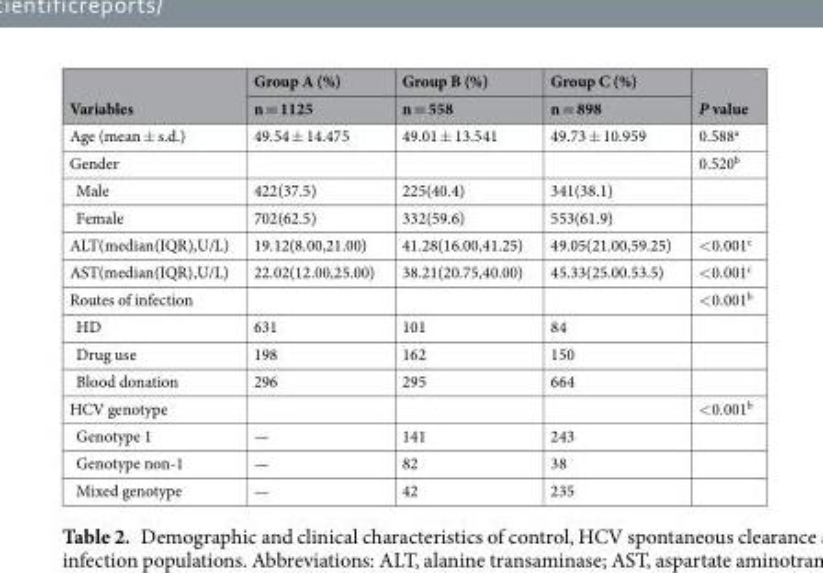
<table><thead><tr><td rowspan="2">Variables</td><td rowspan="2">Group A (%) n = 1125</td><td rowspan="2">Group B (%) n = 558</td><td rowspan="2">Group C (%) n = 898</td><td rowspan="2">P value</td></tr><tr></tr></thead><tbody><tr><td>Age (mean ± s.d.)</td><td>49.54 ± 14.475</td><td>49.01 ± 13.541</td><td>49.73 ± 10.959</td><td>0.588<sup>a</sup></td></tr><tr><td>Gender</td><td></td><td></td><td></td><td>0.520<sup>b</sup></td></tr><tr><td>Male</td><td>422(37.5)</td><td>225(40.4)</td><td>341(38.1)</td><td></td></tr><tr><td>Female</td><td>702(62.5)</td><td>332(59.6)</td><td>553(61.9)</td><td></td></tr><tr><td>ALT(median(IQR),U/L)</td><td>19.12(8.00,21.00)</td><td>41.28(16.00,41.25)</td><td>49.05(21.00,59.25)</td><td>&lt;0.001<sup>c</sup></td></tr><tr><td>AST(median(IQR),U/L)</td><td>22.02(12.00,25.00)</td><td>38.21(20.75,40.00)</td><td>45.33(25.00.53.5)</td><td>&lt;0.001<sup>c</sup></td></tr><tr><td>Routes of infection</td><td></td><td></td><td></td><td>&lt;0.001<sup>b</sup></td></tr><tr><td>HD</td><td>631</td><td>101</td><td>84</td><td></td></tr><tr><td>Drug use</td><td>198</td><td>162</td><td>150</td><td></td></tr><tr><td>Blood donation</td><td>296</td><td>295</td><td>664</td><td></td></tr><tr><td>HCV genotype</td><td></td><td></td><td></td><td>&lt;0.001<sup>b</sup></td></tr><tr><td>Genotype 1</td><td>—</td><td>141</td><td>243</td><td></td></tr><tr><td>Genotype non-1</td><td>—</td><td>82</td><td>38</td><td></td></tr><tr><td>Mixed genotype</td><td>—</td><td>42</td><td>235</td><td></td></tr></tbody></table>